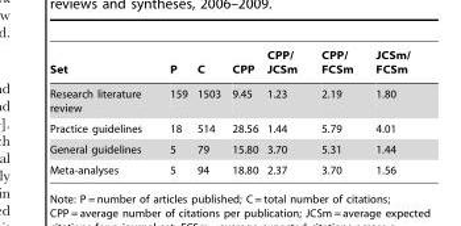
<table><thead><tr><td>Set</td><td>P</td><td>C</td><td>CPP</td><td>CPP/ JCSm</td><td>CPP/ FCSm</td><td>JCSm/ FCSm</td></tr></thead><tbody><tr><td>Research literature review</td><td>159</td><td>1503</td><td>9.45</td><td>1.23</td><td>2.19</td><td>1.80</td></tr><tr><td>Practice guidelines</td><td>18</td><td>514</td><td>28.56</td><td>1.44</td><td>5.79</td><td>4.01</td></tr><tr><td>General guidelines</td><td>5</td><td>79</td><td>15.80</td><td>3.70</td><td>5.31</td><td>1.44</td></tr><tr><td>Meta-analyses</td><td>5</td><td>94</td><td>18.80</td><td>2.37</td><td>3.70</td><td>1.56</td></tr></tbody></table>